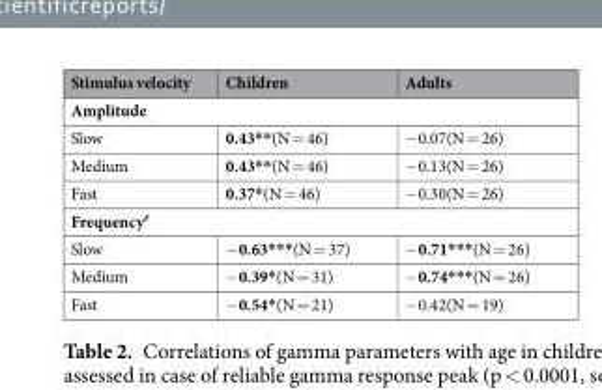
<table><thead><tr><td>Stimulus velocity</td><td>Children</td><td>Adults</td></tr></thead><tbody><tr><td colspan="3">Amplitude</td></tr><tr><td>Slow</td><td>0.43**(N = 46)</td><td>−0.07(N = 26)</td></tr><tr><td>Medium</td><td>0.43**(N = 46)</td><td>−0.13(N = 26)</td></tr><tr><td>Fast</td><td>0.37*(N = 46)</td><td>−0.30(N = 26)</td></tr><tr><td colspan="3">Frequency<sup>#</sup></td></tr><tr><td>Slow</td><td>−0.63***(N = 37)</td><td>−0.71***(N = 26)</td></tr><tr><td>Medium</td><td>−0.39*(N = 31)</td><td>−0.74***(N = 26)</td></tr><tr><td>Fast</td><td>−0.54*(N = 21)</td><td>−0.42(N = 19)</td></tr></tbody></table>